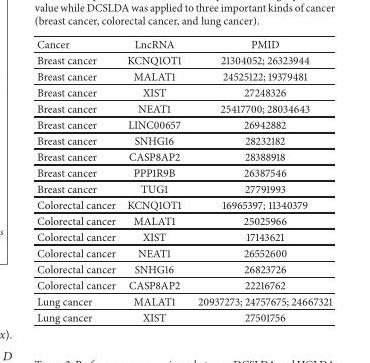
<table><thead><tr><td>Cancer</td><td>LncRNA</td><td>PMID</td></tr></thead><tbody><tr><td>Breast cancer</td><td>KCNQ1OT1</td><td>21304052; 26323944</td></tr><tr><td>Breast cancer</td><td>MALAT1</td><td>24525122; 19379481</td></tr><tr><td>Breast cancer</td><td>XIST</td><td>27248326</td></tr><tr><td>Breast cancer</td><td>NEAT1</td><td>25417700; 28034643</td></tr><tr><td>Breast cancer</td><td>LINC00657</td><td>26942882</td></tr><tr><td>Breast cancer</td><td>SNHG16</td><td>28232182</td></tr><tr><td>Breast cancer</td><td>CASP8AP2</td><td>28388918</td></tr><tr><td>Breast cancer</td><td>PPP1R9B</td><td>26387546</td></tr><tr><td>Breast cancer</td><td>TUG1</td><td>27791993</td></tr><tr><td>Colorectal cancer</td><td>KCNQ1OT1</td><td>16965397; 11340379</td></tr><tr><td>Colorectal cancer</td><td>MALAT1</td><td>25025966</td></tr><tr><td>Colorectal cancer</td><td>XIST</td><td>17143621</td></tr><tr><td>Colorectal cancer</td><td>NEAT1</td><td>26552600</td></tr><tr><td>Colorectal cancer</td><td>SNHG16</td><td>26823726</td></tr><tr><td>Colorectal cancer</td><td>CASP8AP2</td><td>22216762</td></tr><tr><td>Lung cancer</td><td>MALAT1</td><td>20937273; 24757675; 24667321</td></tr><tr><td>Lung cancer</td><td>XIST</td><td>27501756</td></tr></tbody></table>